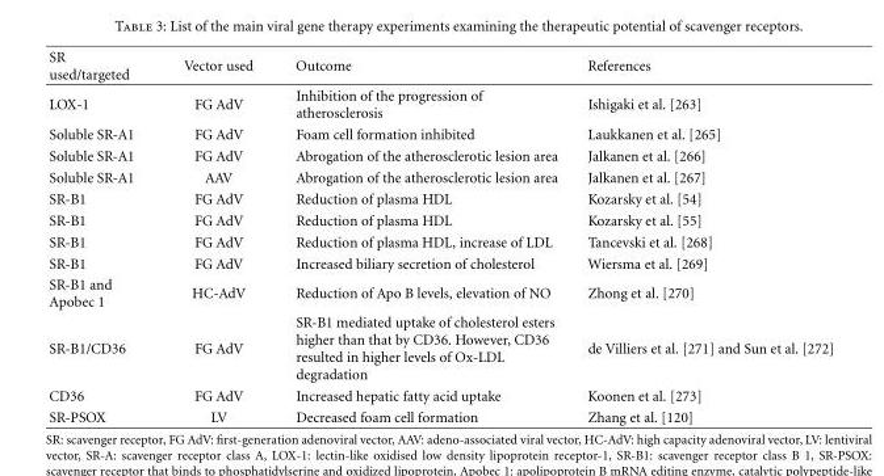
<table><thead><tr><td>SR used/targeted</td><td>Vector used</td><td>Outcome</td><td>References</td></tr></thead><tbody><tr><td>LOX-1</td><td>FG AdV</td><td>Inhibition of the progression of atherosclerosis</td><td>Ishigaki et al. [263]</td></tr><tr><td>Soluble SR-A1</td><td>FG AdV</td><td>Foam cell formation inhibited</td><td>Laukkanen et al. [265]</td></tr><tr><td>Soluble SR-A1</td><td>FG AdV</td><td>Abrogation of the atherosclerotic lesion area</td><td>Jalkanen et al. [266]</td></tr><tr><td>Soluble SR-A1</td><td>AAV</td><td>Abrogation of the atherosclerotic lesion area</td><td>Jalkanen et al. [267]</td></tr><tr><td>SR-B1</td><td>FG AdV</td><td>Reduction of plasma HDL</td><td>Kozarsky et al. [54]</td></tr><tr><td>SR-B1</td><td>FG AdV</td><td>Reduction of plasma HDL</td><td>Kozarsky et al. [55]</td></tr><tr><td>SR-B1</td><td>FG AdV</td><td>Reduction of plasma HDL, increase of LDL</td><td>Tancevski et al. [268]</td></tr><tr><td>SR-B1</td><td>FG AdV</td><td>Increased biliary secretion of cholesterol</td><td>Wiersma et al. [269]</td></tr><tr><td>SR-B1 and Apobec 1</td><td>HC-AdV</td><td>Reduction of Apo B levels, elevation of NO</td><td>Zhong et al. [270]</td></tr><tr><td>SR-B1/CD36</td><td>FG AdV</td><td>SR-B1 mediated uptake of cholesterol esters higher than that by CD36. However, CD36 resulted in higher levels of Ox-LDL degradation</td><td>de Villiers et al. [271] and Sun et al. [272]</td></tr><tr><td>CD36</td><td>FG AdV</td><td>Increased hepatic fatty acid uptake</td><td>Koonen et al. [273]</td></tr><tr><td>SR-PSOX</td><td>LV</td><td>Decreased foam cell formation</td><td>Zhang et al. [120]</td></tr></tbody></table>